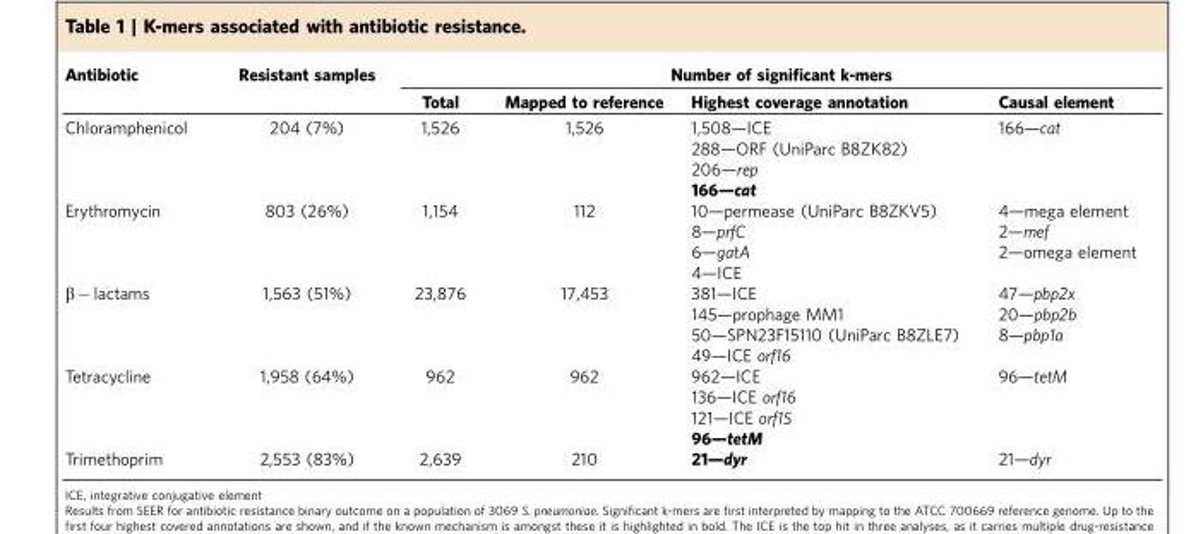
<table><thead><tr><td rowspan="2">Antibiotic</td><td rowspan="2">Resistant samples</td><td colspan="4">Number of significant k-mers</td></tr><tr><td>Total</td><td>Mapped to reference</td><td>Highest coverage annotation</td><td>Causal element</td></tr></thead><tbody><tr><td rowspan="4">Chloramphenicol</td><td>204 (7%)</td><td>1,526</td><td>1,526</td><td>1,508—ICE</td><td>166—cat</td></tr><tr><td></td><td></td><td></td><td>288—ORF (UniParc B8ZK82)</td><td></td></tr><tr><td></td><td></td><td></td><td>206—rep</td><td></td></tr><tr><td></td><td></td><td></td><td>166—cat</td><td></td></tr><tr><td rowspan="4">Erythromycin</td><td>803 (26%)</td><td>1,154</td><td>112</td><td>10—permease (UniParc B8ZKV5)</td><td>4—mega element</td></tr><tr><td></td><td></td><td></td><td>8—prfC</td><td>2—mef</td></tr><tr><td></td><td></td><td></td><td>6—gatA</td><td>2—omega element</td></tr><tr><td></td><td></td><td></td><td>4—ICE</td><td></td></tr><tr><td rowspan="4">β − lactams</td><td>1,563 (51%)</td><td>23,876</td><td>17,453</td><td>381—ICE</td><td>47—pbp2x</td></tr><tr><td></td><td></td><td></td><td>145—prophage MM1</td><td>20—pbp2b</td></tr><tr><td></td><td></td><td></td><td>50—SPN23F15110 (UniParc B8ZLE7)</td><td>8—pbp1a</td></tr><tr><td></td><td></td><td></td><td>49—ICE orf16</td><td></td></tr><tr><td rowspan="4">Tetracycline</td><td>1,958 (64%)</td><td>962</td><td>962</td><td>962—ICE</td><td>96—tetM</td></tr><tr><td></td><td></td><td></td><td>136—ICE orf16</td><td></td></tr><tr><td></td><td></td><td></td><td>121—ICE orf15</td><td></td></tr><tr><td></td><td></td><td></td><td>96—tetM</td><td></td></tr><tr><td>Trimethoprim</td><td>2,553 (83%)</td><td>2,639</td><td>210</td><td>21—dyr</td><td>21—dyr</td></tr></tbody></table>